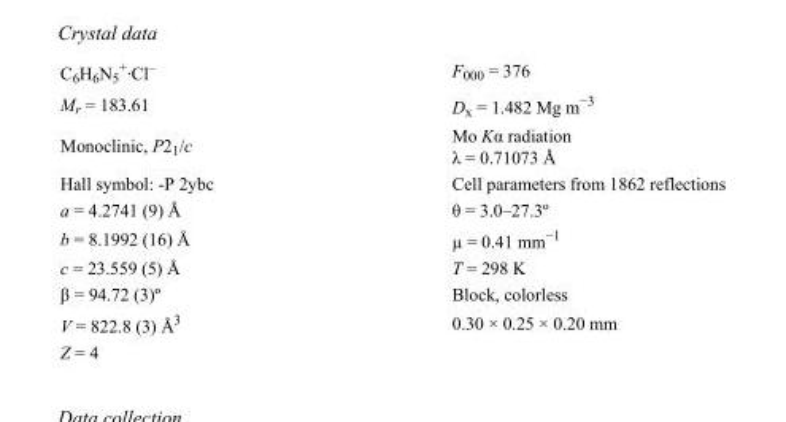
<table><tbody><tr><td>C<sub>6</sub>H<sub>6</sub>N<sub>5</sub> <sup>+</sup>·Cl<sup>–</sup></td><td>F000 = 376</td></tr><tr><td>M<sub>r</sub> = 183.61</td><td>D<sub>x</sub> = 1.482 Mg m<sup>−3</sup></td></tr><tr><td>Monoclinic, P2<sub>1</sub>/c</td><td>Mo Kα radiation λ = 0.71073 Å</td></tr><tr><td>Hall symbol: -P 2ybc</td><td>Cell parameters from 1862 reflections</td></tr><tr><td>a = 4.2741 (9) Å</td><td>θ = 3.0–27.3º</td></tr><tr><td>b = 8.1992 (16) Å</td><td>µ = 0.41 mm<sup>−1</sup></td></tr><tr><td>c = 23.559 (5) Å</td><td>T = 298 K</td></tr><tr><td>β = 94.72 (3)º</td><td>Block, colorless</td></tr><tr><td>V = 822.8 (3) Å<sup>3</sup></td><td>0.30 × 0.25 × 0.20 mm</td></tr><tr><td>Z = 4</td><td></td></tr></tbody></table>